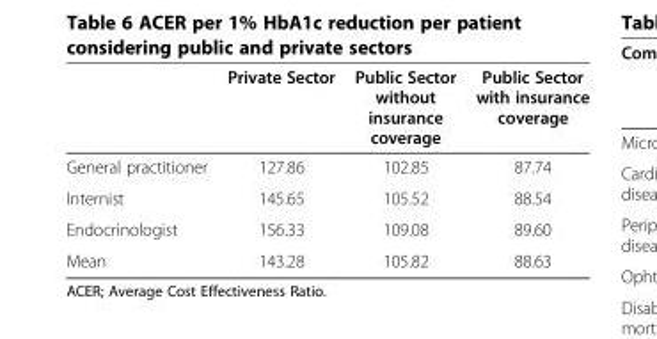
<table><thead><tr><td></td><td>Private Sector</td><td>Public Sector without insurance coverage</td><td>Public Sector with insurance coverage</td></tr></thead><tbody><tr><td>General practitioner</td><td>127.86</td><td>102.85</td><td>87.74</td></tr><tr><td>Internist</td><td>145.65</td><td>105.52</td><td>88.54</td></tr><tr><td>Endocrinologist</td><td>156.33</td><td>109.08</td><td>89.60</td></tr><tr><td>Mean</td><td>143.28</td><td>105.82</td><td>88.63</td></tr></tbody></table>